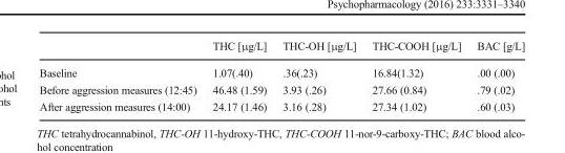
<table><thead><tr><td></td><td>THC [μg/L]</td><td>THC-OH [μg/L]</td><td>THC-COOH [μg/L]</td><td>BAC [g/L]</td></tr></thead><tbody><tr><td>Baseline</td><td>1.07(.40)</td><td>.36(.23)</td><td>16.84(1.32)</td><td>.00 (.00)</td></tr><tr><td>Before aggression measures (12:45)</td><td>46.48 (1.59)</td><td>3.93 (.26)</td><td>27.66 (0.84)</td><td>.79 (.02)</td></tr><tr><td>After aggression measures (14:00)</td><td>24.17 (1.46)</td><td>3.16 (.28)</td><td>27.34 (1.02)</td><td>.60 (.03)</td></tr></tbody></table>